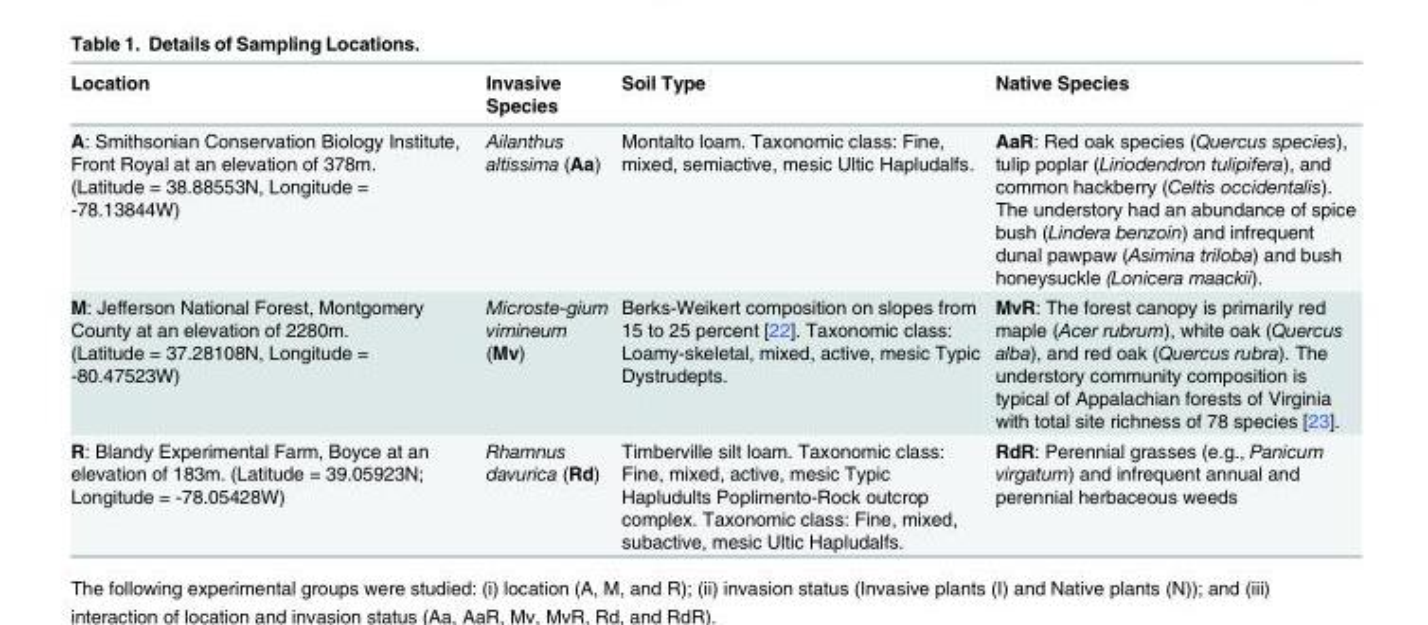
<table><thead><tr><td>Location</td><td>Invasive Species</td><td>Soil Type</td><td>Native Species</td></tr></thead><tbody><tr><td>A: Smithsonian Conservation Biology Institute, Front Royal at an elevation of 378m. (Latitude = 38.88553N, Longitude = -78.13844W)</td><td>Ailanthus altissima (Aa)</td><td>Montalto loam. Taxonomic class: Fine, mixed, semiactive, mesic Ultic Hapludalfs.</td><td>AaR: Red oak species (Quercus species), tulip poplar (Liriodendron tulipifera), and common hackberry (Celtis occidentalis). The understory had an abundance of spice bush (Lindera benzoin) and infrequent dunal pawpaw (Asimina triloba) and bush honeysuckle (Lonicera maackii).</td></tr><tr><td>M: Jefferson National Forest, Montgomery County at an elevation of 2280m. (Latitude = 37.28108N, Longitude = -80.47523W)</td><td>Microste-gium vimineum (Mv)</td><td>Berks-Weikert composition on slopes from 15 to 25 percent [22]. Taxonomic class: Loamy-skeletal, mixed, active, mesic Typic Dystrudepts.</td><td>MvR: The forest canopy is primarily red maple (Acer rubrum), white oak (Quercus alba), and red oak (Quercus rubra). The understory community composition is typical of Appalachian forests of Virginia with total site richness of 78 species [23].</td></tr><tr><td>R: Blandy Experimental Farm, Boyce at an elevation of 183m. (Latitude = 39.05923N; Longitude = -78.05428W)</td><td>Rhamnus davurica (Rd)</td><td>Timberville silt loam. Taxonomic class: Fine, mixed, active, mesic Typic Hapludults Poplimento-Rock outcrop complex. Taxonomic class: Fine, mixed, subactive, mesic Ultic Hapludalfs.</td><td>RdR: Perennial grasses (e.g., Panicum virgatum) and infrequent annual and perennial herbaceous weeds</td></tr></tbody></table>